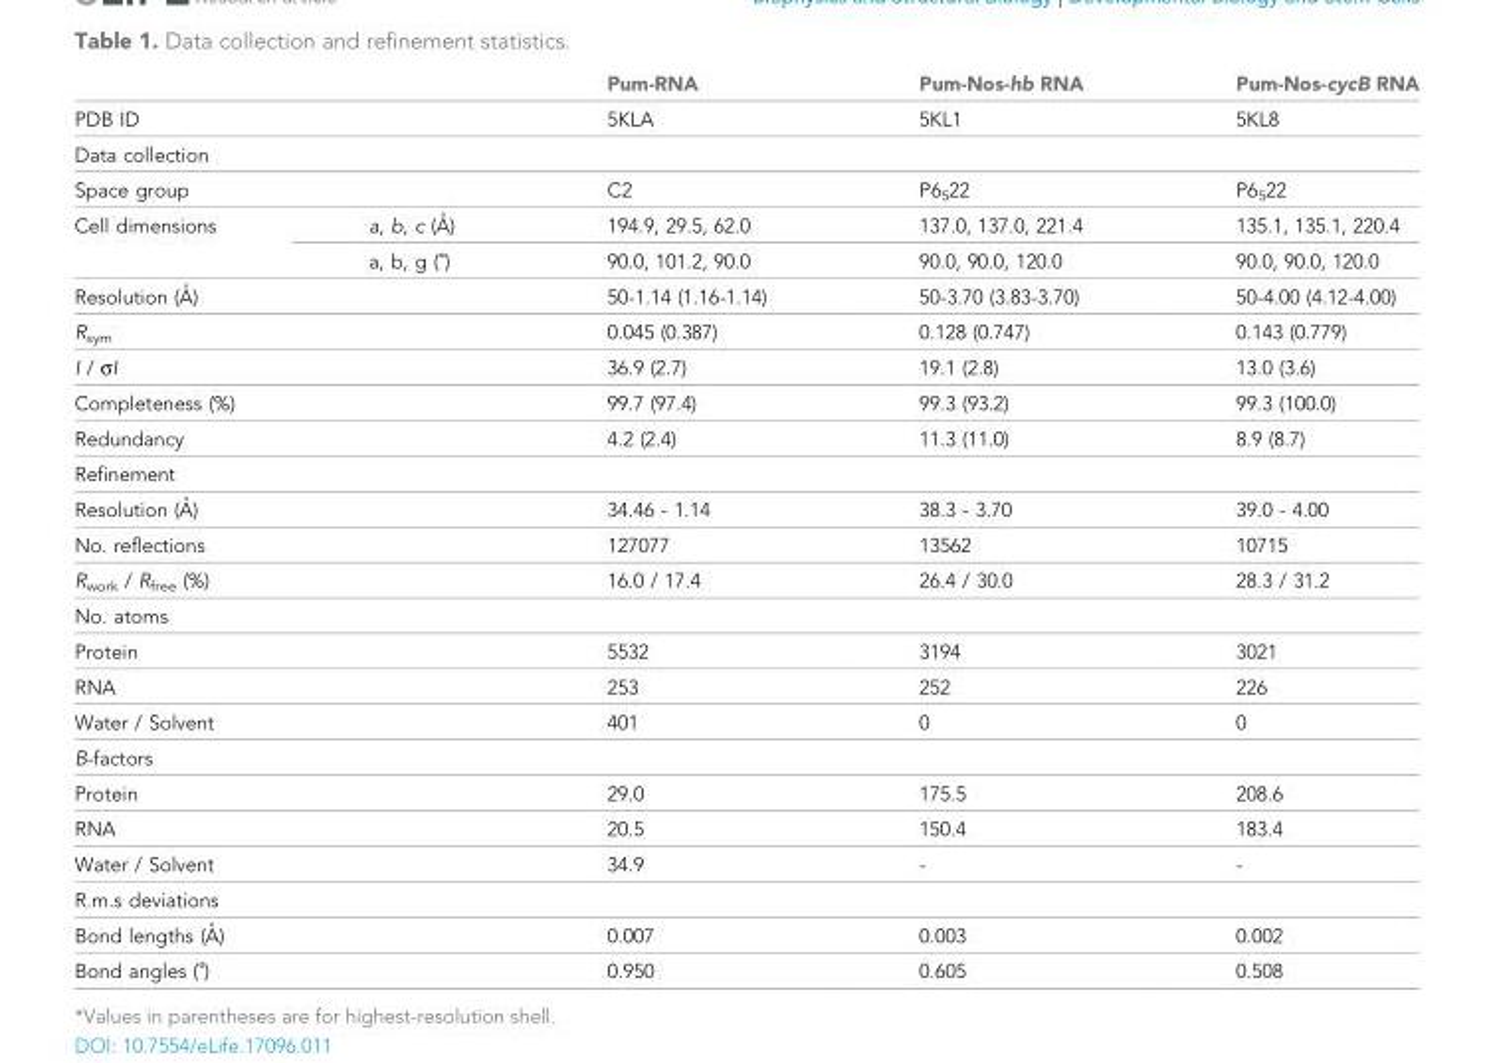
<table><thead><tr><td></td><td></td><td>Pum-RNA</td><td>Pum-Nos-hb RNA</td><td>Pum-Nos-cycB RNA</td></tr></thead><tbody><tr><td colspan="2">PDB ID</td><td>5KLA</td><td>5KL1</td><td>5KL8</td></tr><tr><td colspan="5">Data collection</td></tr><tr><td colspan="2">Space group</td><td>C2</td><td>P6<sub>5</sub>22</td><td>P6<sub>5</sub>22</td></tr><tr><td rowspan="2">Cell dimensions</td><td>a, b, c (A˚ )</td><td>194.9, 29.5, 62.0</td><td>137.0, 137.0, 221.4</td><td>135.1, 135.1, 220.4</td></tr><tr><td>a, b, g (˚)</td><td>90.0, 101.2, 90.0</td><td>90.0, 90.0, 120.0</td><td>90.0, 90.0, 120.0</td></tr><tr><td colspan="2">Resolution (A˚ )</td><td>50-1.14 (1.16-1.14)</td><td>50-3.70 (3.83-3.70)</td><td>50-4.00 (4.12-4.00)</td></tr><tr><td colspan="2">R<sub>sym</sub></td><td>0.045 (0.387)</td><td>0.128 (0.747)</td><td>0.143 (0.779)</td></tr><tr><td colspan="2">I / σI</td><td>36.9 (2.7)</td><td>19.1 (2.8)</td><td>13.0 (3.6)</td></tr><tr><td colspan="2">Completeness (%)</td><td>99.7 (97.4)</td><td>99.3 (93.2)</td><td>99.3 (100.0)</td></tr><tr><td colspan="2">Redundancy</td><td>4.2 (2.4)</td><td>11.3 (11.0)</td><td>8.9 (8.7)</td></tr><tr><td colspan="5">Refinement</td></tr><tr><td colspan="2">Resolution (A˚ )</td><td>34.46 - 1.14</td><td>38.3 - 3.70</td><td>39.0 - 4.00</td></tr><tr><td colspan="2">No. reflections</td><td>127077</td><td>13562</td><td>10715</td></tr><tr><td colspan="2">R<sub>work</sub> / R<sub>free</sub> (%)</td><td>16.0 / 17.4</td><td>26.4 / 30.0</td><td>28.3 / 31.2</td></tr><tr><td colspan="5">No. atoms</td></tr><tr><td colspan="2">Protein</td><td>5532</td><td>3194</td><td>3021</td></tr><tr><td colspan="2">RNA</td><td>253</td><td>252</td><td>226</td></tr><tr><td colspan="2">Water / Solvent</td><td>401</td><td>0</td><td>0</td></tr><tr><td colspan="5">B-factors</td></tr><tr><td colspan="2">Protein</td><td>29.0</td><td>175.5</td><td>208.6</td></tr><tr><td colspan="2">RNA</td><td>20.5</td><td>150.4</td><td>183.4</td></tr><tr><td colspan="2">Water / Solvent</td><td>34.9</td><td>-</td><td>-</td></tr><tr><td colspan="5">R.m.s deviations</td></tr><tr><td colspan="2">Bond lengths (A˚ )</td><td>0.007</td><td>0.003</td><td>0.002</td></tr><tr><td colspan="2">Bond angles (˚)</td><td>0.950</td><td>0.605</td><td>0.508</td></tr></tbody></table>